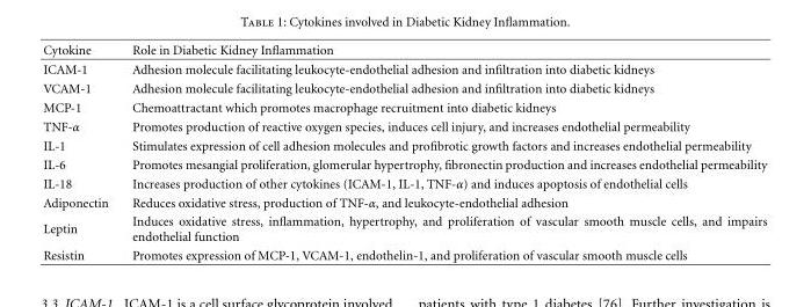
<table><thead><tr><td>Cytokine</td><td>Role in Diabetic Kidney Inflammation</td></tr></thead><tbody><tr><td>ICAM-1</td><td>Adhesion molecule facilitating leukocyte-endothelial adhesion and infiltration into diabetic kidneys</td></tr><tr><td>VCAM-1</td><td>Adhesion molecule facilitating leukocyte-endothelial adhesion and infiltration into diabetic kidneys</td></tr><tr><td>MCP-1</td><td>Chemoattractant which promotes macrophage recruitment into diabetic kidneys</td></tr><tr><td>TNF-α</td><td>Promotes production of reactive oxygen species, induces cell injury, and increases endothelial permeability</td></tr><tr><td>IL-1</td><td>Stimulates expression of cell adhesion molecules and profibrotic growth factors and increases endothelial permeability</td></tr><tr><td>IL-6</td><td>Promotes mesangial proliferation, glomerular hypertrophy, fibronectin production and increases endothelial permeability</td></tr><tr><td>IL-18</td><td>Increases production of other cytokines (ICAM-1, IL-1, TNF-α) and induces apoptosis of endothelial cells</td></tr><tr><td>Adiponectin</td><td>Reduces oxidative stress, production of TNF-α, and leukocyte-endothelial adhesion</td></tr><tr><td>Leptin</td><td>Induces oxidative stress, inflammation, hypertrophy, and proliferation of vascular smooth muscle cells, and impairs endothelial function</td></tr><tr><td>Resistin</td><td>Promotes expression of MCP-1, VCAM-1, endothelin-1, and proliferation of vascular smooth muscle cells</td></tr></tbody></table>